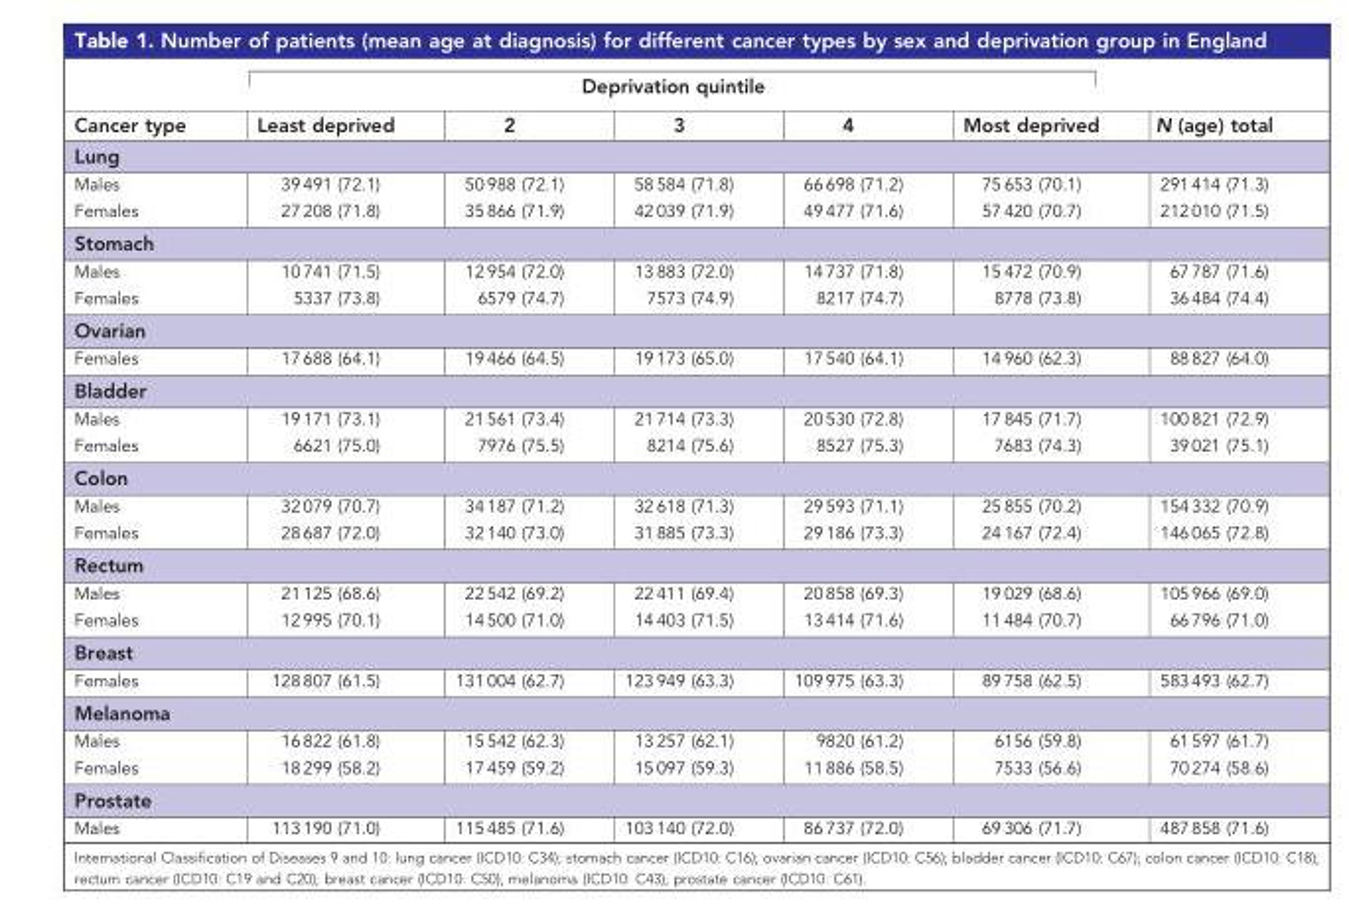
<table><thead><tr><td rowspan="2">Cancer type</td><td colspan="5">Deprivation quintile</td><td rowspan="2">N (age) total</td></tr><tr><td>Least deprived</td><td>2</td><td>3</td><td>4</td><td>Most deprived</td></tr></thead><tbody><tr><td colspan="7">Lung</td></tr><tr><td>Males</td><td>39 491 (72.1)</td><td>50 988 (72.1)</td><td>58 584 (71.8)</td><td>66 698 (71.2)</td><td>75 653 (70.1)</td><td>291 414 (71.3)</td></tr><tr><td>Females</td><td>27 208 (71.8)</td><td>35 866 (71.9)</td><td>42 039 (71.9)</td><td>49 477 (71.6)</td><td>57 420 (70.7)</td><td>212 010 (71.5)</td></tr><tr><td colspan="7">Stomach</td></tr><tr><td>Males</td><td>10 741 (71.5)</td><td>12 954 (72.0)</td><td>13 883 (72.0)</td><td>14 737 (71.8)</td><td>15 472 (70.9)</td><td>67 787 (71.6)</td></tr><tr><td>Females</td><td>5337 (73.8)</td><td>6579 (74.7)</td><td>7573 (74.9)</td><td>8217 (74.7)</td><td>8778 (73.8)</td><td>36 484 (74.4)</td></tr><tr><td colspan="7">Ovarian</td></tr><tr><td>Females</td><td>17 688 (64.1)</td><td>19 466 (64.5)</td><td>19 173 (65.0)</td><td>17 540 (64.1)</td><td>14 960 (62.3)</td><td>88 827 (64.0)</td></tr><tr><td colspan="7">Bladder</td></tr><tr><td>Males</td><td>19 171 (73.1)</td><td>21 561 (73.4)</td><td>21 714 (73.3)</td><td>20 530 (72.8)</td><td>17 845 (71.7)</td><td>100 821 (72.9)</td></tr><tr><td>Females</td><td>6621 (75.0)</td><td>7976 (75.5)</td><td>8214 (75.6)</td><td>8527 (75.3)</td><td>7683 (74.3)</td><td>39 021 (75.1)</td></tr><tr><td colspan="7">Colon</td></tr><tr><td>Males</td><td>32 079 (70.7)</td><td>34 187 (71.2)</td><td>32 618 (71.3)</td><td>29 593 (71.1)</td><td>25 855 (70.2)</td><td>154 332 (70.9)</td></tr><tr><td>Females</td><td>28 687 (72.0)</td><td>32 140 (73.0)</td><td>31 885 (73.3)</td><td>29 186 (73.3)</td><td>24 167 (72.4)</td><td>146 065 (72.8)</td></tr><tr><td colspan="7">Rectum</td></tr><tr><td>Males</td><td>21 125 (68.6)</td><td>22 542 (69.2)</td><td>22 411 (69.4)</td><td>20 858 (69.3)</td><td>19 029 (68.6)</td><td>105 966 (69.0)</td></tr><tr><td>Females</td><td>12 995 (70.1)</td><td>14 500 (71.0)</td><td>14 403 (71.5)</td><td>13 414 (71.6)</td><td>11 484 (70.7)</td><td>66 796 (71.0)</td></tr><tr><td colspan="7">Breast</td></tr><tr><td>Females</td><td>128 807 (61.5)</td><td>131 004 (62.7)</td><td>123 949 (63.3)</td><td>109 975 (63.3)</td><td>89 758 (62.5)</td><td>583 493 (62.7)</td></tr><tr><td colspan="7">Melanoma</td></tr><tr><td>Males</td><td>16 822 (61.8)</td><td>15 542 (62.3)</td><td>13 257 (62.1)</td><td>9820 (61.2)</td><td>6156 (59.8)</td><td>61 597 (61.7)</td></tr><tr><td>Females</td><td>18 299 (58.2)</td><td>17 459 (59.2)</td><td>15 097 (59.3)</td><td>11 886 (58.5)</td><td>7533 (56.6)</td><td>70 274 (58.6)</td></tr><tr><td colspan="7">Prostate</td></tr><tr><td>Males</td><td>113 190 (71.0)</td><td>115 485 (71.6)</td><td>103 140 (72.0)</td><td>86 737 (72.0)</td><td>69 306 (71.7)</td><td>487 858 (71.6)</td></tr></tbody></table>